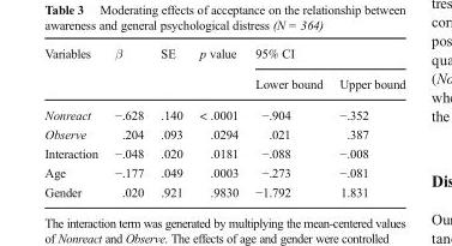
<table><thead><tr><td rowspan="2">Variables</td><td rowspan="2">β</td><td rowspan="2">SE</td><td rowspan="2">p value</td><td colspan="2">95% CI</td></tr><tr><td>Lower bound</td><td>Upper bound</td></tr></thead><tbody><tr><td>Nonreact</td><td>−.628</td><td>.140</td><td>&lt; .0001</td><td>−.904</td><td>−.352</td></tr><tr><td>Observe</td><td>.204</td><td>.093</td><td>.0294</td><td>.021</td><td>.387</td></tr><tr><td>Interaction</td><td>−.048</td><td>.020</td><td>.0181</td><td>−.088</td><td>−.008</td></tr><tr><td>Age</td><td>−.177</td><td>.049</td><td>.0003</td><td>−.273</td><td>−.081</td></tr><tr><td>Gender</td><td>.020</td><td>.921</td><td>.9830</td><td>−1.792</td><td>1.831</td></tr></tbody></table>